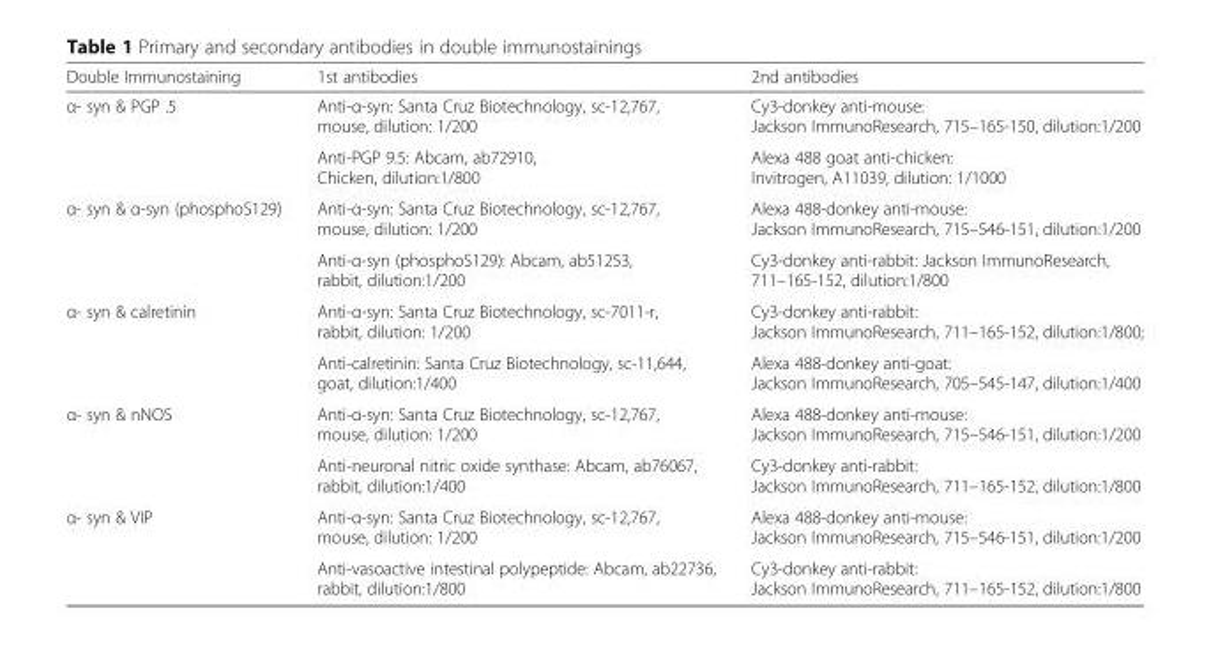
<table><thead><tr><td>Double Immunostaining</td><td>1st antibodies</td><td>2nd antibodies</td></tr></thead><tbody><tr><td rowspan="2">α- syn &amp; PGP .5</td><td>Anti-α-syn: Santa Cruz Biotechnology, sc-12,767, mouse, dilution: 1/200</td><td>Cy3-donkey anti-mouse: Jackson ImmunoResearch, 715–165-150, dilution:1/200</td></tr><tr><td>Anti-PGP 9.5: Abcam, ab72910, Chicken, dilution:1/800</td><td>Alexa 488 goat anti-chicken: Invitrogen, A11039, dilution: 1/1000</td></tr><tr><td rowspan="2">α- syn &amp; α-syn (phosphoS129)</td><td>Anti-α-syn: Santa Cruz Biotechnology, sc-12,767, mouse, dilution: 1/200</td><td>Alexa 488-donkey anti-mouse: Jackson ImmunoResearch, 715–546-151, dilution:1/200</td></tr><tr><td>Anti-α-syn (phosphoS129): Abcam, ab51253, rabbit, dilution:1/200</td><td>Cy3-donkey anti-rabbit: Jackson ImmunoResearch, 711–165-152, dilution:1/800</td></tr><tr><td rowspan="2">α- syn &amp; calretinin</td><td>Anti-α-syn: Santa Cruz Biotechnology, sc-7011-r, rabbit, dilution: 1/200</td><td>Cy3-donkey anti-rabbit: Jackson ImmunoResearch, 711–165-152, dilution:1/800;</td></tr><tr><td>Anti-calretinin: Santa Cruz Biotechnology, sc-11,644, goat, dilution:1/400</td><td>Alexa 488-donkey anti-goat: Jackson ImmunoResearch, 705–545-147, dilution:1/400</td></tr><tr><td rowspan="2">α- syn &amp; nNOS</td><td>Anti-α-syn: Santa Cruz Biotechnology, sc-12,767, mouse, dilution: 1/200</td><td>Alexa 488-donkey anti-mouse: Jackson ImmunoResearch, 715–546-151, dilution:1/200</td></tr><tr><td>Anti-neuronal nitric oxide synthase: Abcam, ab76067, rabbit, dilution:1/400</td><td>Cy3-donkey anti-rabbit: Jackson ImmunoResearch, 711–165-152, dilution:1/800</td></tr><tr><td rowspan="2">α- syn &amp; VIP</td><td>Anti-α-syn: Santa Cruz Biotechnology, sc-12,767, mouse, dilution: 1/200</td><td>Alexa 488-donkey anti-mouse: Jackson ImmunoResearch, 715–546-151, dilution:1/200</td></tr><tr><td>Anti-vasoactive intestinal polypeptide: Abcam, ab22736, rabbit, dilution:1/800</td><td>Cy3-donkey anti-rabbit: Jackson ImmunoResearch, 711–165-152, dilution:1/800</td></tr></tbody></table>